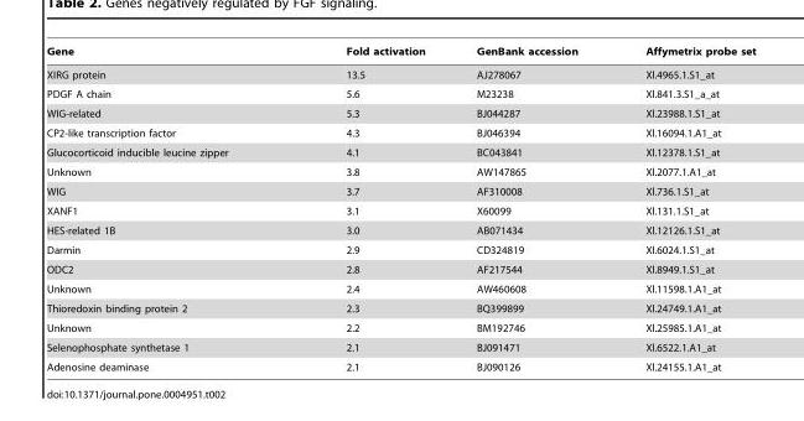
<table><thead><tr><td>Gene</td><td>Fold activation</td><td>GenBank accession</td><td>Affymetrix probe set</td></tr></thead><tbody><tr><td>XIRG protein</td><td>13.5</td><td>AJ278067</td><td>Xl.4965.1.S1_at</td></tr><tr><td>PDGF A chain</td><td>5.6</td><td>M23238</td><td>Xl.841.3.S1_a_at</td></tr><tr><td>WIG-related</td><td>5.3</td><td>BJ044287</td><td>Xl.23988.1.S1_at</td></tr><tr><td>CP2-like transcription factor</td><td>4.3</td><td>BJ046394</td><td>Xl.16094.1.A1_at</td></tr><tr><td>Glucocorticoid inducible leucine zipper</td><td>4.1</td><td>BC043841</td><td>Xl.12378.1.S1_at</td></tr><tr><td>Unknown</td><td>3.8</td><td>AW147865</td><td>Xl.2077.1.A1_at</td></tr><tr><td>WIG</td><td>3.7</td><td>AF310008</td><td>Xl.736.1.S1_at</td></tr><tr><td>XANF1</td><td>3.1</td><td>X60099</td><td>Xl.131.1.S1_at</td></tr><tr><td>HES-related 1B</td><td>3.0</td><td>AB071434</td><td>Xl.12126.1.S1_at</td></tr><tr><td>Darmin</td><td>2.9</td><td>CD324819</td><td>Xl.6024.1.S1_at</td></tr><tr><td>ODC2</td><td>2.8</td><td>AF217544</td><td>Xl.8949.1.S1_at</td></tr><tr><td>Unknown</td><td>2.4</td><td>AW460608</td><td>Xl.11598.1.A1_at</td></tr><tr><td>Thioredoxin binding protein 2</td><td>2.3</td><td>BQ399899</td><td>Xl.24749.1.A1_at</td></tr><tr><td>Unknown</td><td>2.2</td><td>BM192746</td><td>Xl.25985.1.A1_at</td></tr><tr><td>Selenophosphate synthetase 1</td><td>2.1</td><td>BJ091471</td><td>Xl.6522.1.A1_at</td></tr><tr><td>Adenosine deaminase</td><td>2.1</td><td>BJ090126</td><td>Xl.24155.1.A1_at</td></tr></tbody></table>